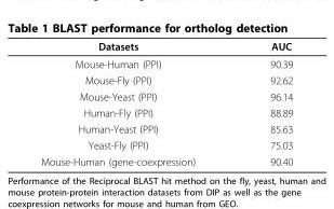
<table><thead><tr><td>Datasets</td><td>AUC</td></tr></thead><tbody><tr><td>Mouse-Human (PPI)</td><td>90.39</td></tr><tr><td>Mouse-Fly (PPI)</td><td>92.62</td></tr><tr><td>Mouse-Yeast (PPI)</td><td>96.14</td></tr><tr><td>Human-Fly (PPI)</td><td>88.89</td></tr><tr><td>Human-Yeast (PPI)</td><td>85.63</td></tr><tr><td>Yeast-Fly (PPI)</td><td>75.03</td></tr><tr><td>Mouse-Human (gene-coexpression)</td><td>90.40</td></tr></tbody></table>